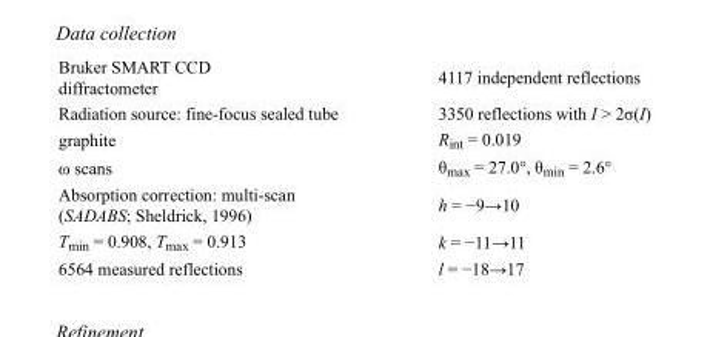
<table><tbody><tr><td>Bruker SMART CCD diffractometer</td><td>4117 independent reflections</td></tr><tr><td>Radiation source: fine-focus sealed tube</td><td>3350 reflections with I &gt; 2σ(I)</td></tr><tr><td>graphite</td><td>R<sub>int</sub> = 0.019</td></tr><tr><td>ω scans</td><td>θ<sub>max</sub> = 27.0°, θ<sub>min</sub> = 2.6°</td></tr><tr><td>Absorption correction: multi-scan (SADABS; Sheldrick, 1996)</td><td>h = −9→10</td></tr><tr><td>T<sub>min</sub> = 0.908, T<sub>max</sub> = 0.913</td><td>k = −11→11</td></tr><tr><td>6564 measured reflections</td><td>l = −18→17</td></tr></tbody></table>